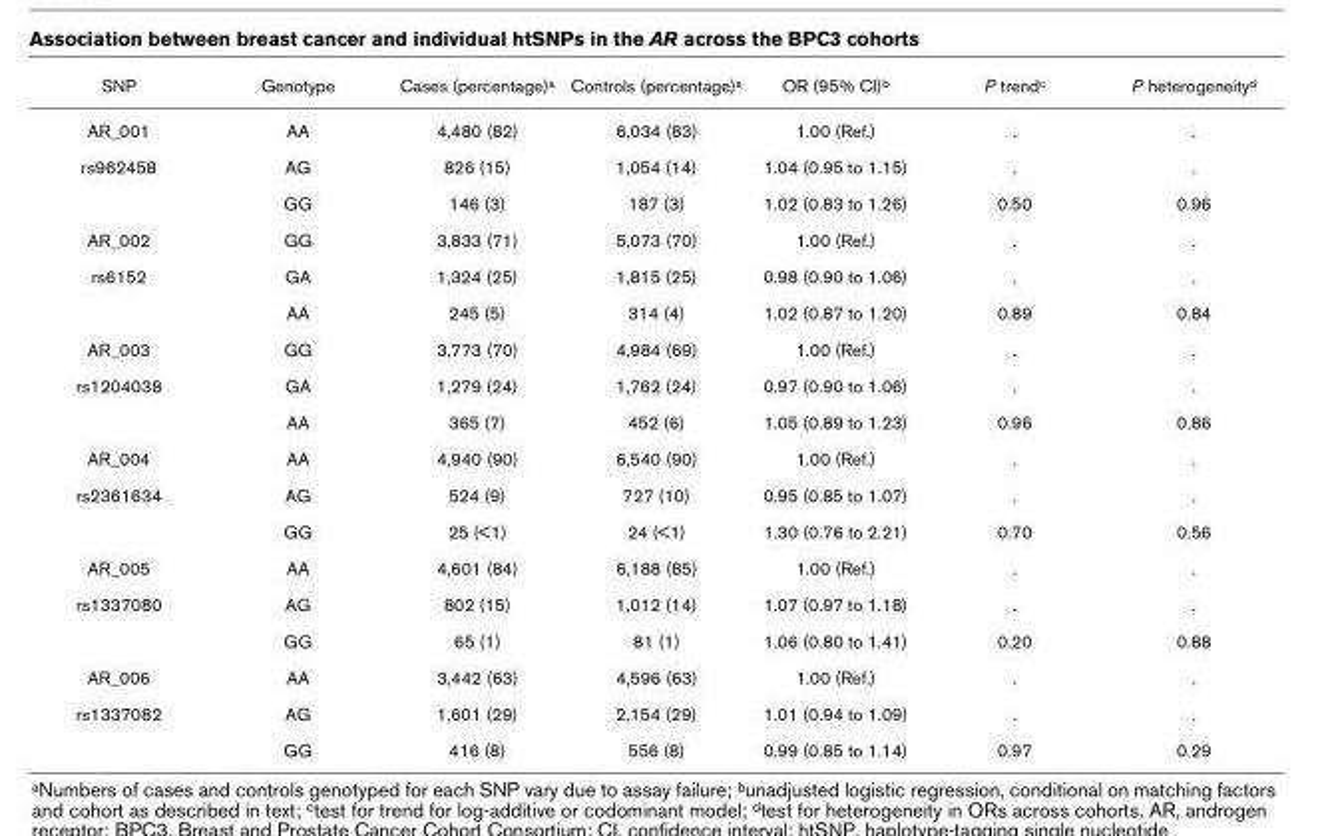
<table><thead><tr><td>SNP</td><td>Genotype</td><td>Cases (percentage)a</td><td>Controls (percentage)a</td><td>OR (95% CI)b</td><td>P trendc</td><td>P heterogeneityd</td></tr></thead><tbody><tr><td>AR_001</td><td>AA</td><td>4,480 (82)</td><td>6,034 (83)</td><td>1.00 (Ref.)</td><td>.</td><td>.</td></tr><tr><td rowspan="2">rs962458</td><td>AG</td><td>826 (15)</td><td>1,054 (14)</td><td>1.04 (0.95 to 1.15)</td><td>.</td><td>.</td></tr><tr><td>GG</td><td>146 (3)</td><td>187 (3)</td><td>1.02 (0.83 to 1.26)</td><td>0.50</td><td>0.96</td></tr><tr><td>AR_002</td><td>GG</td><td>3,833 (71)</td><td>5,073 (70)</td><td>1.00 (Ref.)</td><td>.</td><td>.</td></tr><tr><td rowspan="2">rs6152</td><td>GA</td><td>1,324 (25)</td><td>1,815 (25)</td><td>0.98 (0.90 to 1.06)</td><td>.</td><td>.</td></tr><tr><td>AA</td><td>245 (5)</td><td>314 (4)</td><td>1.02 (0.87 to 1.20)</td><td>0.89</td><td>0.84</td></tr><tr><td>AR_003</td><td>GG</td><td>3,773 (70)</td><td>4,984 (69)</td><td>1.00 (Ref.)</td><td>.</td><td>.</td></tr><tr><td rowspan="2">rs1204038</td><td>GA</td><td>1,279 (24)</td><td>1,762 (24)</td><td>0.97 (0.90 to 1.06)</td><td>.</td><td>.</td></tr><tr><td>AA</td><td>365 (7)</td><td>452 (6)</td><td>1.05 (0.89 to 1.23)</td><td>0.96</td><td>0.86</td></tr><tr><td>AR_004</td><td>AA</td><td>4,940 (90)</td><td>6,540 (90)</td><td>1.00 (Ref.)</td><td>.</td><td>.</td></tr><tr><td rowspan="2">rs2361634</td><td>AG</td><td>524 (9)</td><td>727 (10)</td><td>0.95 (0.85 to 1.07)</td><td>.</td><td>.</td></tr><tr><td>GG</td><td>25 (&lt;1)</td><td>24 (&lt;1)</td><td>1.30 (0.76 to 2.21)</td><td>0.70</td><td>0.56</td></tr><tr><td>AR_005</td><td>AA</td><td>4,601 (84)</td><td>6,188 (85)</td><td>1.00 (Ref.)</td><td>.</td><td>.</td></tr><tr><td rowspan="2">rs1337080</td><td>AG</td><td>802 (15)</td><td>1,012 (14)</td><td>1.07 (0.97 to 1.18)</td><td>.</td><td>.</td></tr><tr><td>GG</td><td>65 (1)</td><td>81 (1)</td><td>1.06 (0.80 to 1.41)</td><td>0.20</td><td>0.88</td></tr><tr><td>AR_006</td><td>AA</td><td>3,442 (63)</td><td>4,596 (63)</td><td>1.00 (Ref.)</td><td>.</td><td>.</td></tr><tr><td rowspan="2">rs1337082</td><td>AG</td><td>1,601 (29)</td><td>2,154 (29)</td><td>1.01 (0.94 to 1.09)</td><td>.</td><td>.</td></tr><tr><td>GG</td><td>416 (8)</td><td>556 (8)</td><td>0.99 (0.85 to 1.14)</td><td>0.97</td><td>0.29</td></tr></tbody></table>